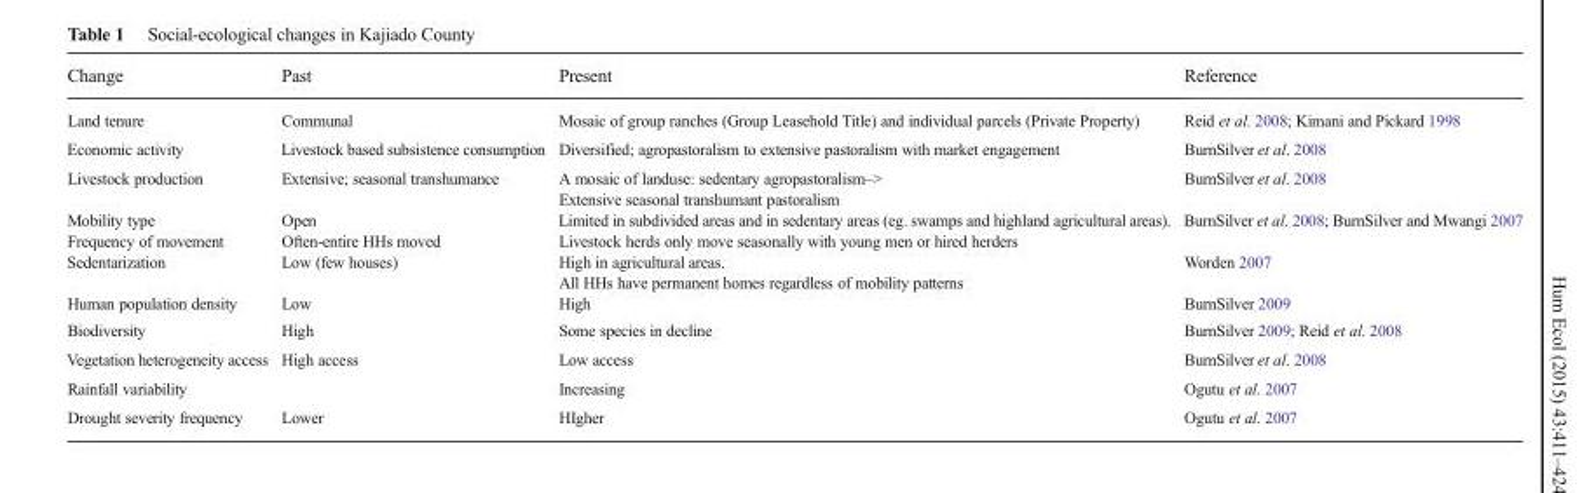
<table><thead><tr><td>Change</td><td>Past</td><td>Present</td><td>Reference</td></tr></thead><tbody><tr><td>Land tenure</td><td>Communal</td><td>Mosaic of group ranches (Group Leasehold Title) and individual parcels (Private Property)</td><td>Reid et al. 2008; Kimani and Pickard 1998</td></tr><tr><td>Economic activity</td><td>Livestock based subsistence consumption</td><td>Diversified; agropastoralism to extensive pastoralism with market engagement</td><td>BurnSilver et al. 2008</td></tr><tr><td>Livestock production</td><td>Extensive; seasonal transhumance</td><td>A mosaic of landuse: sedentary agropastoralism–&gt; Extensive seasonal transhumant pastoralism</td><td>BurnSilver et al. 2008</td></tr><tr><td>Mobility type Frequency of movement</td><td>Open Often-entire HHs moved</td><td>Limited in subdivided areas and in sedentary areas (eg. swamps and highland agricultural areas). Livestock herds only move seasonally with young men or hired herders</td><td>BurnSilver et al. 2008; BurnSilver and Mwangi 2007</td></tr><tr><td>Sedentarization</td><td>Low (few houses)</td><td>High in agricultural areas. All HHs have permanent homes regardless of mobility patterns</td><td>Worden 2007</td></tr><tr><td>Human population density</td><td>Low</td><td>High</td><td>BurnSilver 2009</td></tr><tr><td>Biodiversity</td><td>High</td><td>Some species in decline</td><td>BurnSilver 2009; Reid et al. 2008</td></tr><tr><td>Vegetation heterogeneity access</td><td>High access</td><td>Low access</td><td>BurnSilver et al. 2008</td></tr><tr><td>Rainfall variability</td><td></td><td>Increasing</td><td>Ogutu et al. 2007</td></tr><tr><td>Drought severity frequency</td><td>Lower</td><td>HIgher</td><td>Ogutu et al. 2007</td></tr></tbody></table>